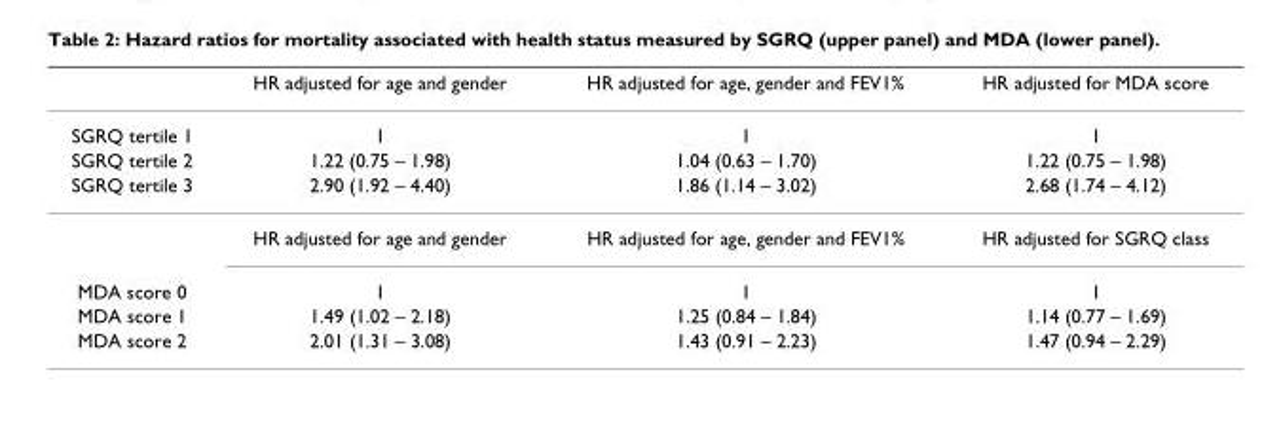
<table><thead><tr><td></td><td>HR adjusted for age and gender</td><td>HR adjusted for age, gender and FEV1%</td><td>HR adjusted for MDA score</td></tr></thead><tbody><tr><td>SGRQ tertile 1</td><td>1</td><td>1</td><td>1</td></tr><tr><td>SGRQ tertile 2</td><td>1.22 (0.75 – 1.98)</td><td>1.04 (0.63 – 1.70)</td><td>1.22 (0.75 – 1.98)</td></tr><tr><td rowspan="2">SGRQ tertile 3</td><td>2.90 (1.92 – 4.40)</td><td>1.86 (1.14 – 3.02)</td><td>2.68 (1.74 – 4.12)</td></tr><tr><td>HR adjusted for age and gender</td><td>HR adjusted for age, gender and FEV1%</td><td>HR adjusted for SGRQ class</td></tr><tr><td>MDA score 0</td><td>1</td><td>1</td><td>1</td></tr><tr><td>MDA score 1</td><td>1.49 (1.02 – 2.18)</td><td>1.25 (0.84 – 1.84)</td><td>1.14 (0.77 – 1.69)</td></tr><tr><td>MDA score 2</td><td>2.01 (1.31 – 3.08)</td><td>1.43 (0.91 – 2.23)</td><td>1.47 (0.94 – 2.29)</td></tr></tbody></table>